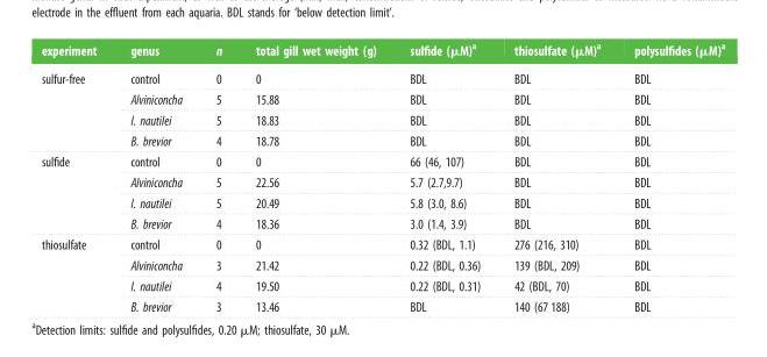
<table><thead><tr><td>experiment</td><td>genus</td><td>n</td><td>total gill wet weight (g)</td><td>sulfide (μM)<sup>a</sup></td><td>thiosulfate (μM)<sup>a</sup></td><td>polysulfides (μM)<sup>a</sup></td></tr></thead><tbody><tr><td rowspan="4">sulfur-free</td><td>control</td><td>0</td><td>0</td><td>BDL</td><td>BDL</td><td>BDL</td></tr><tr><td>Alviniconcha</td><td>5</td><td>15.88</td><td>BDL</td><td>BDL</td><td>BDL</td></tr><tr><td>I. nautilei</td><td>5</td><td>18.83</td><td>BDL</td><td>BDL</td><td>BDL</td></tr><tr><td>B. brevior</td><td>4</td><td>18.78</td><td>BDL</td><td>BDL</td><td>BDL</td></tr><tr><td rowspan="4">sulfide</td><td>control</td><td>0</td><td>0</td><td>66 (46, 107)</td><td>BDL</td><td>BDL</td></tr><tr><td>Alviniconcha</td><td>5</td><td>22.56</td><td>5.7 (2.7,9.7)</td><td>BDL</td><td>BDL</td></tr><tr><td>I. nautilei</td><td>5</td><td>20.49</td><td>5.8 (3.0, 8.6)</td><td>BDL</td><td>BDL</td></tr><tr><td>B. brevior</td><td>4</td><td>18.36</td><td>3.0 (1.4, 3.9)</td><td>BDL</td><td>BDL</td></tr><tr><td rowspan="4">thiosulfate</td><td>control</td><td>0</td><td>0</td><td>0.32 (BDL, 1.1)</td><td>276 (216, 310)</td><td>BDL</td></tr><tr><td>Alviniconcha</td><td>3</td><td>21.42</td><td>0.22 (BDL, 0.36)</td><td>139 (BDL, 209)</td><td>BDL</td></tr><tr><td>I. nautilei</td><td>4</td><td>19.50</td><td>0.22 (BDL, 0.31)</td><td>42 (BDL, 70)</td><td>BDL</td></tr><tr><td>B. brevior</td><td>3</td><td>13.46</td><td>BDL</td><td>140 (67 188)</td><td>BDL</td></tr></tbody></table>